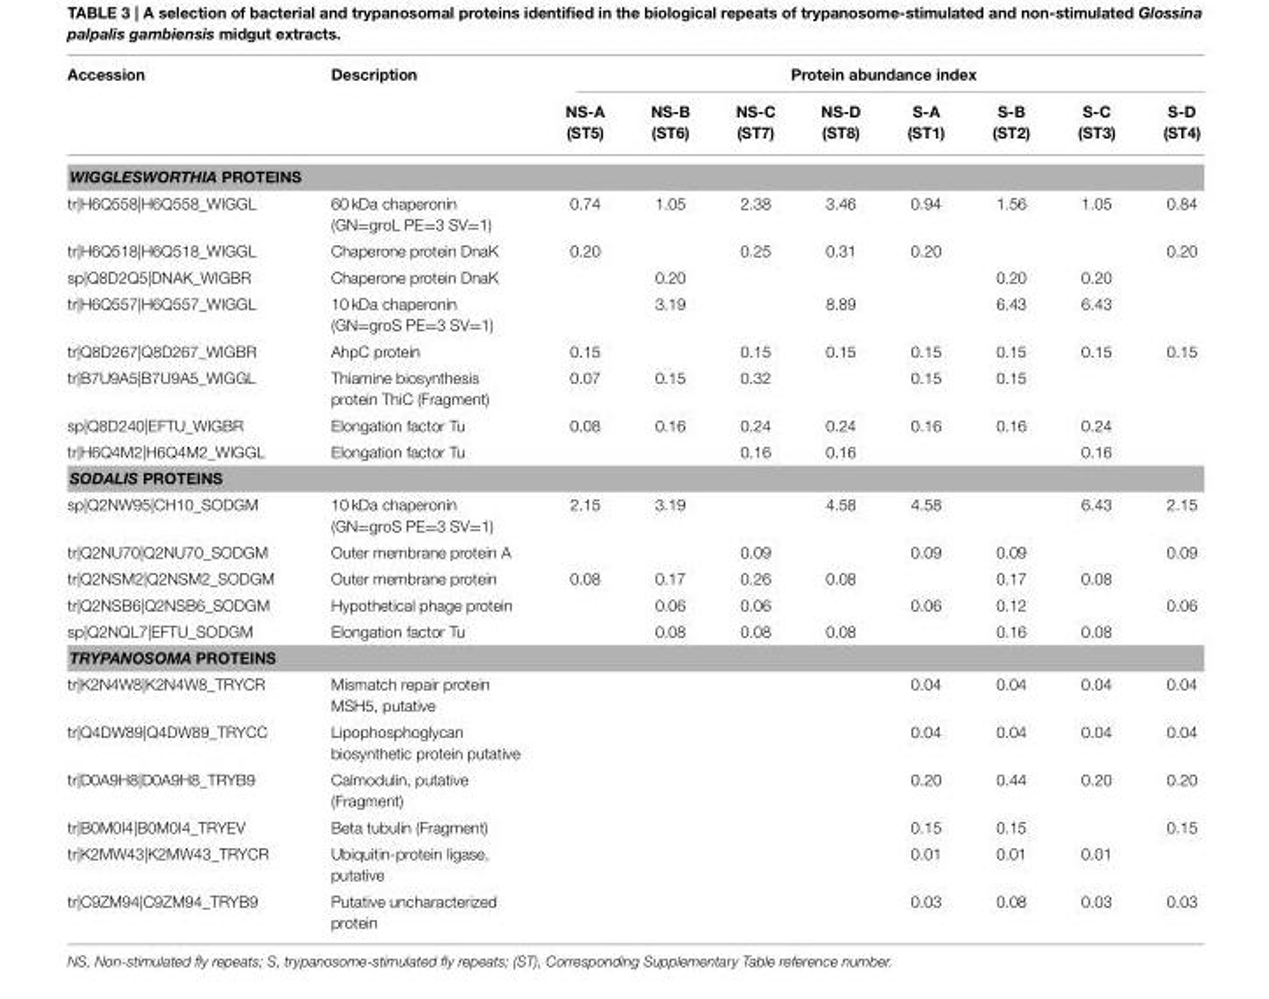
<table><thead><tr><td rowspan="2">Accession</td><td rowspan="2">Description</td><td colspan="8">Protein abundance index</td></tr><tr><td>NS-A (ST5)</td><td>NS-B (ST6)</td><td>NS-C (ST7)</td><td>NS-D (ST8)</td><td>S-A (ST1)</td><td>S-B (ST2)</td><td>S-C (ST3)</td><td>S-D (ST4)</td></tr></thead><tbody><tr><td colspan="10">WIGGLESWORTHIA PROTEINS</td></tr><tr><td>tr|H6Q558|H6Q558_WIGGL</td><td>60 kDa chaperonin (GN=groL PE=3 SV=1)</td><td>0.74</td><td>1.05</td><td>2.38</td><td>3.46</td><td>0.94</td><td>1.56</td><td>1.05</td><td>0.84</td></tr><tr><td>tr|H6Q518|H6Q518_WIGGL</td><td>Chaperone protein DnaK</td><td>0.20</td><td></td><td>0.25</td><td>0.31</td><td>0.20</td><td></td><td></td><td>0.20</td></tr><tr><td>sp|Q8D2Q5|DNAK_WIGBR</td><td>Chaperone protein DnaK</td><td></td><td>0.20</td><td></td><td></td><td></td><td>0.20</td><td>0.20</td><td></td></tr><tr><td>tr|H6Q557|H6Q557_WIGGL</td><td>10 kDa chaperonin (GN=groS PE=3 SV=1)</td><td></td><td>3.19</td><td></td><td>8.89</td><td></td><td>6.43</td><td>6.43</td><td></td></tr><tr><td>tr|Q8D267|Q8D267_WIGBR</td><td>AhpC protein</td><td>0.15</td><td></td><td>0.15</td><td>0.15</td><td>0.15</td><td>0.15</td><td>0.15</td><td>0.15</td></tr><tr><td>tr|B7U9A5|B7U9A5_WIGGL</td><td>Thiamine biosynthesis protein ThiC (Fragment)</td><td>0.07</td><td>0.15</td><td>0.32</td><td></td><td>0.15</td><td>0.15</td><td></td><td></td></tr><tr><td>sp|Q8D240|EFTU_WIGBR</td><td>Elongation factor Tu</td><td>0.08</td><td>0.16</td><td>0.24</td><td>0.24</td><td>0.16</td><td>0.16</td><td>0.24</td><td></td></tr><tr><td>tr|H6Q4M2|H6Q4M2_WIGGL</td><td>Elongation factor Tu</td><td></td><td></td><td>0.16</td><td>0.16</td><td></td><td></td><td>0.16</td><td></td></tr><tr><td colspan="10">SODALIS PROTEINS</td></tr><tr><td>sp|Q2NW95|CH10_SODGM</td><td>10 kDa chaperonin (GN=groS PE=3 SV=1)</td><td>2.15</td><td>3.19</td><td></td><td>4.58</td><td>4.58</td><td></td><td>6.43</td><td>2.15</td></tr><tr><td>tr|Q2NU70|Q2NU70_SODGM</td><td>Outer membrane protein A</td><td></td><td></td><td>0.09</td><td></td><td>0.09</td><td>0.09</td><td></td><td>0.09</td></tr><tr><td>tr|Q2NSM2|Q2NSM2_SODGM</td><td>Outer membrane protein</td><td>0.08</td><td>0.17</td><td>0.26</td><td>0.08</td><td></td><td>0.17</td><td>0.08</td><td></td></tr><tr><td>tr|Q2NSB6|Q2NSB6_SODGM</td><td>Hypothetical phage protein</td><td></td><td>0.06</td><td>0.06</td><td></td><td>0.06</td><td>0.12</td><td></td><td>0.06</td></tr><tr><td>sp|Q2NQL7|EFTU_SODGM</td><td>Elongation factor Tu</td><td></td><td>0.08</td><td>0.08</td><td>0.08</td><td></td><td>0.16</td><td>0.08</td><td></td></tr><tr><td colspan="10">TRYPANOSOMA PROTEINS</td></tr><tr><td>tr|K2N4W8|K2N4W8_TRYCR</td><td>Mismatch repair protein MSH5, putative</td><td></td><td></td><td></td><td></td><td>0.04</td><td>0.04</td><td>0.04</td><td>0.04</td></tr><tr><td>tr|Q4DW89|Q4DW89_TRYCC</td><td>Lipophosphoglycan biosynthetic protein putative</td><td></td><td></td><td></td><td></td><td>0.04</td><td>0.04</td><td>0.04</td><td>0.04</td></tr><tr><td>tr|D0A9H8|D0A9H8_TRYB9</td><td>Calmodulin, putative (Fragment)</td><td></td><td></td><td></td><td></td><td>0.20</td><td>0.44</td><td>0.20</td><td>0.20</td></tr><tr><td>tr|B0M0I4|B0M0I4_TRYEV</td><td>Beta tubulin (Fragment)</td><td></td><td></td><td></td><td></td><td>0.15</td><td>0.15</td><td></td><td>0.15</td></tr><tr><td>tr|K2MW43|K2MW43_TRYCR</td><td>Ubiquitin-protein ligase, putative</td><td></td><td></td><td></td><td></td><td>0.01</td><td>0.01</td><td>0.01</td><td></td></tr><tr><td>tr|C9ZM94|C9ZM94_TRYB9</td><td>Putative uncharacterized protein</td><td></td><td></td><td></td><td></td><td>0.03</td><td>0.08</td><td>0.03</td><td>0.03</td></tr></tbody></table>